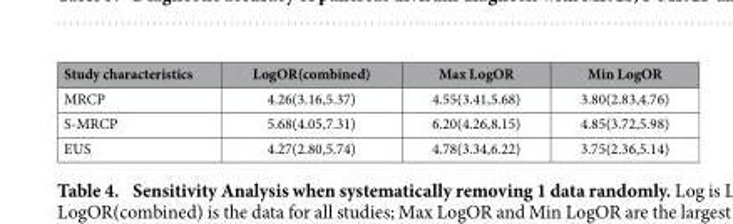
<table><thead><tr><td>Study characteristics</td><td>LogOR(combined)</td><td>Max LogOR</td><td>Min LogOR</td></tr></thead><tbody><tr><td>MRCP</td><td>4.26(3.16,5.37)</td><td>4.55(3.41,5.68)</td><td>3.80(2.83,4.76)</td></tr><tr><td>S-MRCP</td><td>5.68(4.05,7.31)</td><td>6.20(4.26,8.15)</td><td>4.85(3.72,5.98)</td></tr><tr><td>EUS</td><td>4.27(2.80,5.74)</td><td>4.78(3.34,6.22)</td><td>3.75(2.36,5.14)</td></tr></tbody></table>